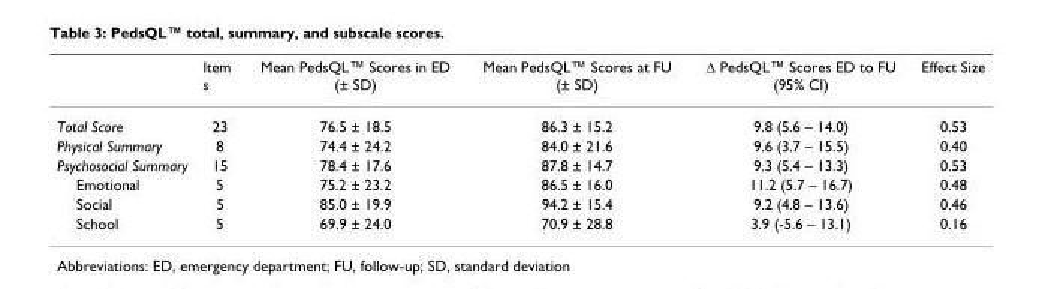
<table><thead><tr><td></td><td>Item s</td><td>Mean PedsQL™ Scores in ED (± SD)</td><td>Mean PedsQL™ Scores at FU (± SD)</td><td>Δ PedsQL™ Scores ED to FU (95% CI)</td><td>Effect Size</td></tr></thead><tbody><tr><td>Total Score</td><td>23</td><td>76.5 ± 18.5</td><td>86.3 ± 15.2</td><td>9.8 (5.6 – 14.0)</td><td>0.53</td></tr><tr><td>Physical Summary</td><td>8</td><td>74.4 ± 24.2</td><td>84.0 ± 21.6</td><td>9.6 (3.7 – 15.5)</td><td>0.40</td></tr><tr><td>Psychosocial Summary</td><td>15</td><td>78.4 ± 17.6</td><td>87.8 ± 14.7</td><td>9.3 (5.4 – 13.3)</td><td>0.53</td></tr><tr><td>Emotional</td><td>5</td><td>75.2 ± 23.2</td><td>86.5 ± 16.0</td><td>11.2 (5.7 – 16.7)</td><td>0.48</td></tr><tr><td>Social</td><td>5</td><td>85.0 ± 19.9</td><td>94.2 ± 15.4</td><td>9.2 (4.8 – 13.6)</td><td>0.46</td></tr><tr><td>School</td><td>5</td><td>69.9 ± 24.0</td><td>70.9 ± 28.8</td><td>3.9 (-5.6 – 13.1)</td><td>0.16</td></tr></tbody></table>